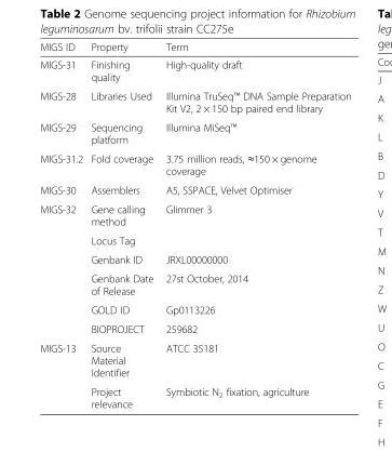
<table><thead><tr><td>MIGS ID</td><td>Property</td><td>Term</td></tr></thead><tbody><tr><td>MIGS-31</td><td>Finishing quality</td><td>High-quality draft</td></tr><tr><td>MIGS-28</td><td>Libraries Used</td><td>Illumina TruSeq™ DNA Sample Preparation Kit V2, 2 × 150 bp paired end library</td></tr><tr><td>MIGS-29</td><td>Sequencing platform</td><td>Illumina MiSeq™</td></tr><tr><td>MIGS-31.2</td><td>Fold coverage</td><td>3.75 million reads, ≈150 × genome coverage</td></tr><tr><td>MIGS-30</td><td>Assemblers</td><td>A5, SSPACE, Velvet Optimiser</td></tr><tr><td rowspan="6">MIGS-32</td><td>Gene calling method</td><td>Glimmer 3</td></tr><tr><td>Locus Tag</td><td></td></tr><tr><td>Genbank ID</td><td>JRXL00000000</td></tr><tr><td>Genbank Date of Release</td><td>27st October, 2014</td></tr><tr><td>GOLD ID</td><td>Gp0113226</td></tr><tr><td>BIOPROJECT</td><td>259682</td></tr><tr><td rowspan="2">MIGS-13</td><td>Source Material Identifier</td><td>ATCC 35181</td></tr><tr><td>Project relevance</td><td>Symbiotic N<sub>2</sub> fixation, agriculture</td></tr></tbody></table>